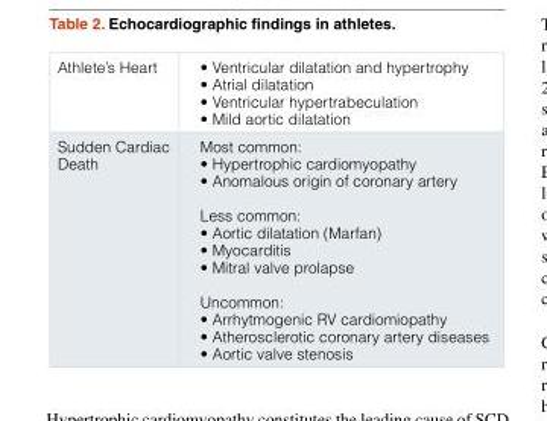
<table><tbody><tr><td>Athlete’s Heart</td><td>• Ventricular dilatation and hypertrophy • Atrial dilatation • Ventricular hypertrabeculation • Mild aortic dilatation</td></tr><tr><td>Sudden Cardiac Death</td><td>Most common: • Hypertrophic cardiomyopathy • Anomalous origin of coronary artery Less common: • Aortic dilatation (Marfan) • Myocarditis • Mitral valve prolapse Uncommon: • Arrhytmogenic RV cardiomiopathy • Atherosclerotic coronary artery diseases • Aortic valve stenosis</td></tr></tbody></table>